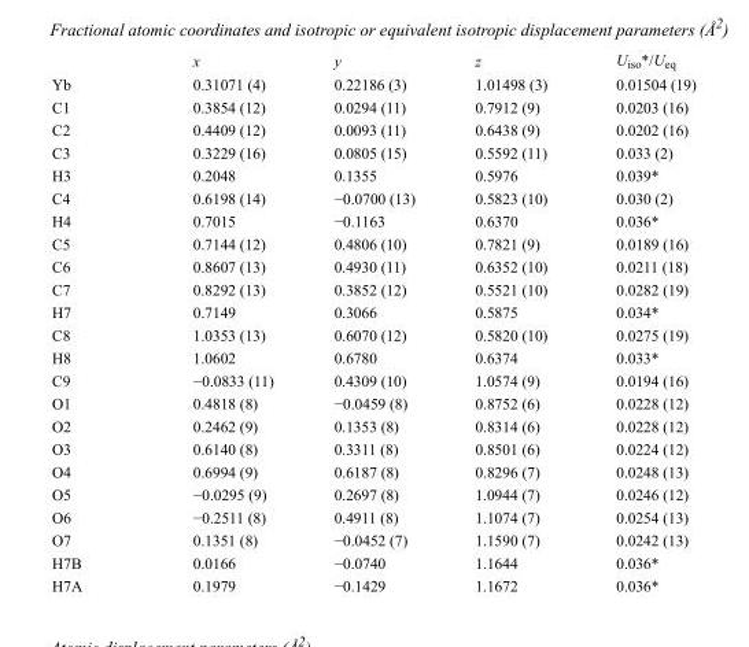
<table><thead><tr><td></td><td>x</td><td>y</td><td>z</td><td>U<sub>iso</sub>*/U<sub>eq</sub></td></tr></thead><tbody><tr><td>Yb</td><td>0.31071 (4)</td><td>0.22186 (3)</td><td>1.01498 (3)</td><td>0.01504 (19)</td></tr><tr><td>C1</td><td>0.3854 (12)</td><td>0.0294 (11)</td><td>0.7912 (9)</td><td>0.0203 (16)</td></tr><tr><td>C2</td><td>0.4409 (12)</td><td>0.0093 (11)</td><td>0.6438 (9)</td><td>0.0202 (16)</td></tr><tr><td>C3</td><td>0.3229 (16)</td><td>0.0805 (15)</td><td>0.5592 (11)</td><td>0.033 (2)</td></tr><tr><td>H3</td><td>0.2048</td><td>0.1355</td><td>0.5976</td><td>0.039*</td></tr><tr><td>C4</td><td>0.6198 (14)</td><td>−0.0700 (13)</td><td>0.5823 (10)</td><td>0.030 (2)</td></tr><tr><td>H4</td><td>0.7015</td><td>−0.1163</td><td>0.6370</td><td>0.036*</td></tr><tr><td>C5</td><td>0.7144 (12)</td><td>0.4806 (10)</td><td>0.7821 (9)</td><td>0.0189 (16)</td></tr><tr><td>C6</td><td>0.8607 (13)</td><td>0.4930 (11)</td><td>0.6352 (10)</td><td>0.0211 (18)</td></tr><tr><td>C7</td><td>0.8292 (13)</td><td>0.3852 (12)</td><td>0.5521 (10)</td><td>0.0282 (19)</td></tr><tr><td>H7</td><td>0.7149</td><td>0.3066</td><td>0.5875</td><td>0.034*</td></tr><tr><td>C8</td><td>1.0353 (13)</td><td>0.6070 (12)</td><td>0.5820 (10)</td><td>0.0275 (19)</td></tr><tr><td>H8</td><td>1.0602</td><td>0.6780</td><td>0.6374</td><td>0.033*</td></tr><tr><td>C9</td><td>−0.0833 (11)</td><td>0.4309 (10)</td><td>1.0574 (9)</td><td>0.0194 (16)</td></tr><tr><td>O1</td><td>0.4818 (8)</td><td>−0.0459 (8)</td><td>0.8752 (6)</td><td>0.0228 (12)</td></tr><tr><td>O2</td><td>0.2462 (9)</td><td>0.1353 (8)</td><td>0.8314 (6)</td><td>0.0228 (12)</td></tr><tr><td>O3</td><td>0.6140 (8)</td><td>0.3311 (8)</td><td>0.8501 (6)</td><td>0.0224 (12)</td></tr><tr><td>O4</td><td>0.6994 (9)</td><td>0.6187 (8)</td><td>0.8296 (7)</td><td>0.0248 (13)</td></tr><tr><td>O5</td><td>−0.0295 (9)</td><td>0.2697 (8)</td><td>1.0944 (7)</td><td>0.0246 (12)</td></tr><tr><td>O6</td><td>−0.2511 (8)</td><td>0.4911 (8)</td><td>1.1074 (7)</td><td>0.0254 (13)</td></tr><tr><td>O7</td><td>0.1351 (8)</td><td>−0.0452 (7)</td><td>1.1590 (7)</td><td>0.0242 (13)</td></tr><tr><td>H7B</td><td>0.0166</td><td>−0.0740</td><td>1.1644</td><td>0.036*</td></tr><tr><td>H7A</td><td>0.1979</td><td>−0.1429</td><td>1.1672</td><td>0.036*</td></tr></tbody></table>